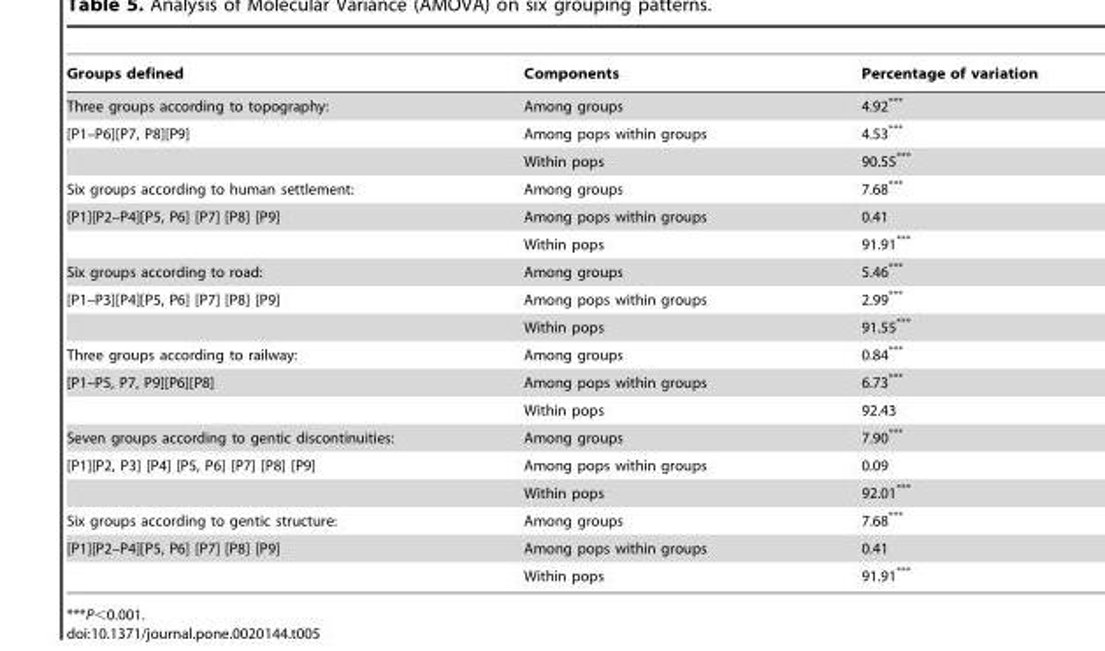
<table><thead><tr><td>Groups defined</td><td>Components</td><td>Percentage of variation</td></tr></thead><tbody><tr><td>Three groups according to topography:</td><td>Among groups</td><td>4.92***</td></tr><tr><td rowspan="2">[P1–P6][P7, P8][P9]</td><td>Among pops within groups</td><td>4.53***</td></tr><tr><td>Within pops</td><td>90.55***</td></tr><tr><td>Six groups according to human settlement:</td><td>Among groups</td><td>7.68***</td></tr><tr><td rowspan="2">[P1][P2–P4][P5, P6] [P7] [P8] [P9]</td><td>Among pops within groups</td><td>0.41</td></tr><tr><td>Within pops</td><td>91.91***</td></tr><tr><td>Six groups according to road:</td><td>Among groups</td><td>5.46***</td></tr><tr><td rowspan="2">[P1–P3][P4][P5, P6] [P7] [P8] [P9]</td><td>Among pops within groups</td><td>2.99***</td></tr><tr><td>Within pops</td><td>91.55***</td></tr><tr><td>Three groups according to railway:</td><td>Among groups</td><td>0.84***</td></tr><tr><td rowspan="2">[P1–P5, P7, P9][P6][P8]</td><td>Among pops within groups</td><td>6.73***</td></tr><tr><td>Within pops</td><td>92.43</td></tr><tr><td>Seven groups according to gentic discontinuities:</td><td>Among groups</td><td>7.90***</td></tr><tr><td rowspan="2">[P1][P2, P3] [P4] [P5, P6] [P7] [P8] [P9]</td><td>Among pops within groups</td><td>0.09</td></tr><tr><td>Within pops</td><td>92.01***</td></tr><tr><td>Six groups according to gentic structure:</td><td>Among groups</td><td>7.68***</td></tr><tr><td rowspan="2">[P1][P2–P4][P5, P6] [P7] [P8] [P9]</td><td>Among pops within groups</td><td>0.41</td></tr><tr><td>Within pops</td><td>91.91***</td></tr></tbody></table>